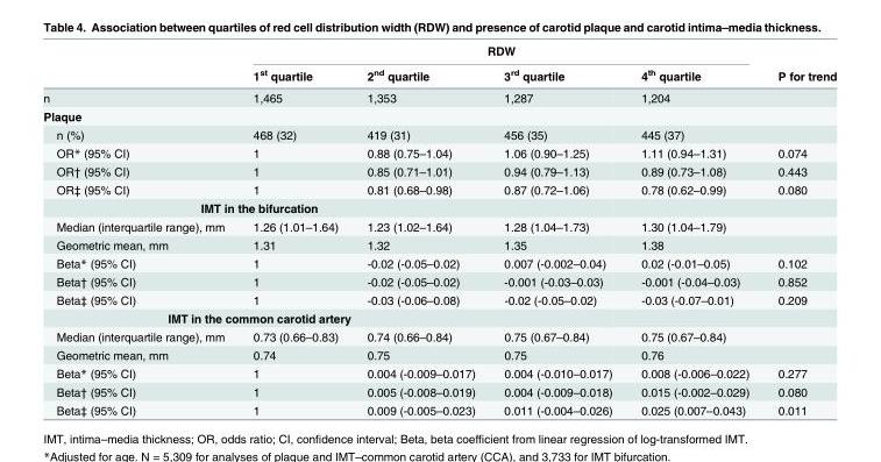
<table><thead><tr><td rowspan="2"></td><td colspan="4">RDW</td><td rowspan="2">P for trend</td></tr><tr><td>1<sup>st</sup> quartile</td><td>2<sup>nd</sup> quartile</td><td>3<sup>rd</sup> quartile</td><td>4<sup>th</sup> quartile</td></tr></thead><tbody><tr><td>n</td><td>1,465</td><td>1,353</td><td>1,287</td><td>1,204</td><td></td></tr><tr><td colspan="6">Plaque</td></tr><tr><td>n (%)</td><td>468 (32)</td><td>419 (31)</td><td>456 (35)</td><td>445 (37)</td><td></td></tr><tr><td>OR* (95% CI)</td><td>1</td><td>0.88 (0.75–1.04)</td><td>1.06 (0.90–1.25)</td><td>1.11 (0.94–1.31)</td><td>0.074</td></tr><tr><td>OR† (95% CI)</td><td>1</td><td>0.85 (0.71–1.01)</td><td>0.94 (0.79–1.13)</td><td>0.89 (0.73–1.08)</td><td>0.443</td></tr><tr><td>OR‡ (95% CI)</td><td>1</td><td>0.81 (0.68–0.98)</td><td>0.87 (0.72–1.06)</td><td>0.78 (0.62–0.99)</td><td>0.080</td></tr><tr><td colspan="6">IMT in the bifurcation</td></tr><tr><td>Median (interquartile range), mm</td><td>1.26 (1.01–1.64)</td><td>1.23 (1.02–1.64)</td><td>1.28 (1.04–1.73)</td><td>1.30 (1.04–1.79)</td><td></td></tr><tr><td>Geometric mean, mm</td><td>1.31</td><td>1.32</td><td>1.35</td><td>1.38</td><td></td></tr><tr><td>Beta* (95% CI)</td><td>1</td><td>-0.02 (-0.05–0.02)</td><td>0.007 (-0.002–0.04)</td><td>0.02 (-0.01–0.05)</td><td>0.102</td></tr><tr><td>Beta† (95% CI)</td><td>1</td><td>-0.02 (-0.05–0.02)</td><td>-0.001 (-0.03–0.03)</td><td>-0.001 (-0.04–0.03)</td><td>0.852</td></tr><tr><td>Beta‡ (95% CI)</td><td>1</td><td>-0.03 (-0.06–0.08)</td><td>-0.02 (-0.05–0.02)</td><td>-0.03 (-0.07–0.01)</td><td>0.209</td></tr><tr><td colspan="6">IMT in the common carotid artery</td></tr><tr><td>Median (interquartile range), mm</td><td>0.73 (0.66–0.83)</td><td>0.74 (0.66–0.84)</td><td>0.75 (0.67–0.84)</td><td>0.75 (0.67–0.84)</td><td></td></tr><tr><td>Geometric mean, mm</td><td>0.74</td><td>0.75</td><td>0.75</td><td>0.76</td><td></td></tr><tr><td>Beta* (95% CI)</td><td>1</td><td>0.004 (-0.009–0.017)</td><td>0.004 (-0.010–0.017)</td><td>0.008 (-0.006–0.022)</td><td>0.277</td></tr><tr><td>Beta† (95% CI)</td><td>1</td><td>0.005 (-0.008–0.019)</td><td>0.004 (-0.009–0.018)</td><td>0.015 (-0.002–0.029)</td><td>0.080</td></tr><tr><td>Beta‡ (95% CI)</td><td>1</td><td>0.009 (-0.005–0.023)</td><td>0.011 (-0.004–0.026)</td><td>0.025 (0.007–0.043)</td><td>0.011</td></tr></tbody></table>